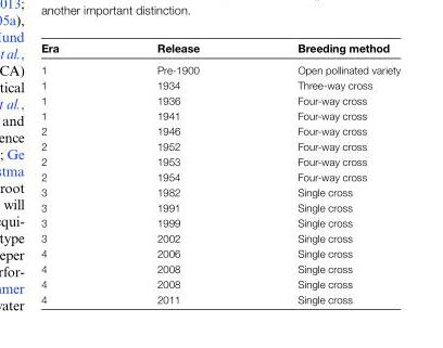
<table><thead><tr><td>Era</td><td>Release</td><td>Breeding method</td></tr></thead><tbody><tr><td>1</td><td>Pre-1900</td><td>Open pollinated variety</td></tr><tr><td>1</td><td>1934</td><td>Three-way cross</td></tr><tr><td>1</td><td>1936</td><td>Four-way cross</td></tr><tr><td>1</td><td>1941</td><td>Four-way cross</td></tr><tr><td>2</td><td>1946</td><td>Four-way cross</td></tr><tr><td>2</td><td>1952</td><td>Four-way cross</td></tr><tr><td>2</td><td>1953</td><td>Four-way cross</td></tr><tr><td>2</td><td>1954</td><td>Four-way cross</td></tr><tr><td>3</td><td>1982</td><td>Single cross</td></tr><tr><td>3</td><td>1991</td><td>Single cross</td></tr><tr><td>3</td><td>1999</td><td>Single cross</td></tr><tr><td>3</td><td>2002</td><td>Single cross</td></tr><tr><td>4</td><td>2006</td><td>Single cross</td></tr><tr><td>4</td><td>2008</td><td>Single cross</td></tr><tr><td>4</td><td>2008</td><td>Single cross</td></tr><tr><td>4</td><td>2011</td><td>Single cross</td></tr></tbody></table>